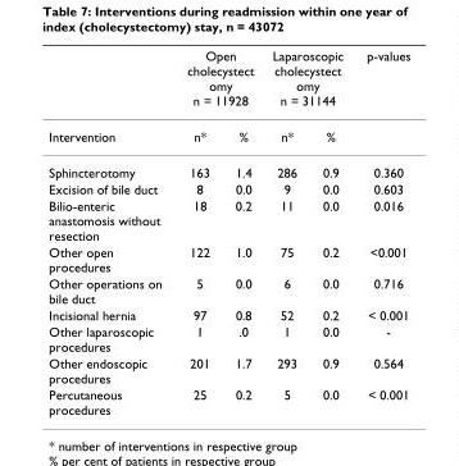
<table><thead><tr><td rowspan="2">Intervention</td><td colspan="2">Open cholecystect omy n = 11928</td><td colspan="2">Laparoscopic cholecystect omy n = 31144</td><td rowspan="2">p-values</td></tr><tr><td>n*</td><td>%</td><td>n*</td><td>%</td></tr></thead><tbody><tr><td>Sphincterotomy</td><td>163</td><td>1.4</td><td>286</td><td>0.9</td><td>0.360</td></tr><tr><td>Excision of bile duct</td><td>8</td><td>0.0</td><td>9</td><td>0.0</td><td>0.603</td></tr><tr><td>Bilio-enteric anastomosis without resection</td><td>18</td><td>0.2</td><td>11</td><td>0.0</td><td>0.016</td></tr><tr><td>Other open procedures</td><td>122</td><td>1.0</td><td>75</td><td>0.2</td><td>&lt;0.001</td></tr><tr><td>Other operations on bile duct</td><td>5</td><td>0.0</td><td>6</td><td>0.0</td><td>0.716</td></tr><tr><td>Incisional hernia</td><td>97</td><td>0.8</td><td>52</td><td>0.2</td><td>&lt; 0.001</td></tr><tr><td>Other laparoscopic procedures</td><td>1</td><td>.0</td><td>1</td><td>0.0</td><td>-</td></tr><tr><td>Other endoscopic procedures</td><td>201</td><td>1.7</td><td>293</td><td>0.9</td><td>0.564</td></tr><tr><td>Percutaneous procedures</td><td>25</td><td>0.2</td><td>5</td><td>0.0</td><td>&lt; 0.001</td></tr></tbody></table>